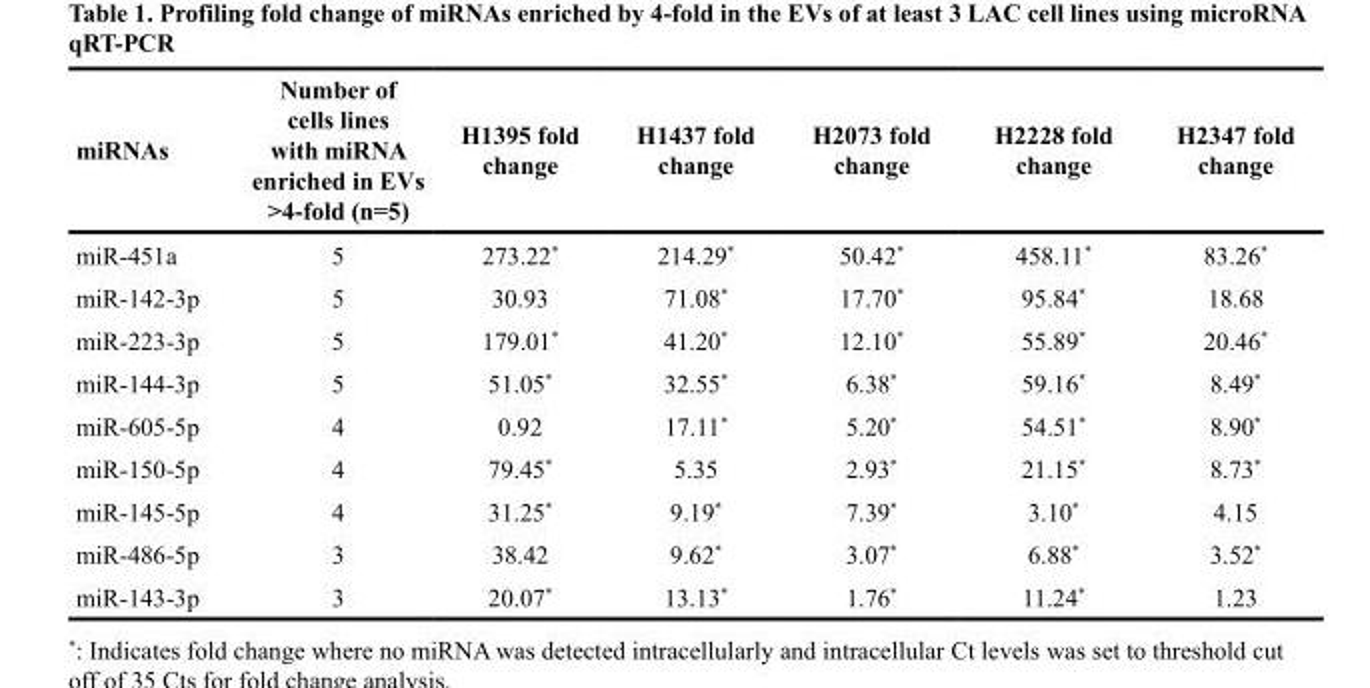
<table><thead><tr><td>miRNAs</td><td>Number of cells lines with miRNA enriched in EVs &gt;4-fold (n=5)</td><td>H1395 fold change</td><td>H1437 fold change</td><td>H2073 fold change</td><td>H2228 fold change</td><td>H2347 fold change</td></tr></thead><tbody><tr><td>miR-451a</td><td>5</td><td>273.22*</td><td>214.29*</td><td>50.42*</td><td>458.11*</td><td>83.26*</td></tr><tr><td>miR-142-3p</td><td>5</td><td>30.93</td><td>71.08*</td><td>17.70*</td><td>95.84*</td><td>18.68</td></tr><tr><td>miR-223-3p</td><td>5</td><td>179.01*</td><td>41.20*</td><td>12.10*</td><td>55.89*</td><td>20.46*</td></tr><tr><td>miR-144-3p</td><td>5</td><td>51.05*</td><td>32.55*</td><td>6.38*</td><td>59.16*</td><td>8.49*</td></tr><tr><td>miR-605-5p</td><td>4</td><td>0.92</td><td>17.11*</td><td>5.20*</td><td>54.51*</td><td>8.90*</td></tr><tr><td>miR-150-5p</td><td>4</td><td>79.45*</td><td>5.35</td><td>2.93*</td><td>21.15*</td><td>8.73*</td></tr><tr><td>miR-145-5p</td><td>4</td><td>31.25*</td><td>9.19*</td><td>7.39*</td><td>3.10*</td><td>4.15</td></tr><tr><td>miR-486-5p</td><td>3</td><td>38.42</td><td>9.62*</td><td>3.07*</td><td>6.88*</td><td>3.52*</td></tr><tr><td>miR-143-3p</td><td>3</td><td>20.07*</td><td>13.13*</td><td>1.76*</td><td>11.24*</td><td>1.23</td></tr></tbody></table>